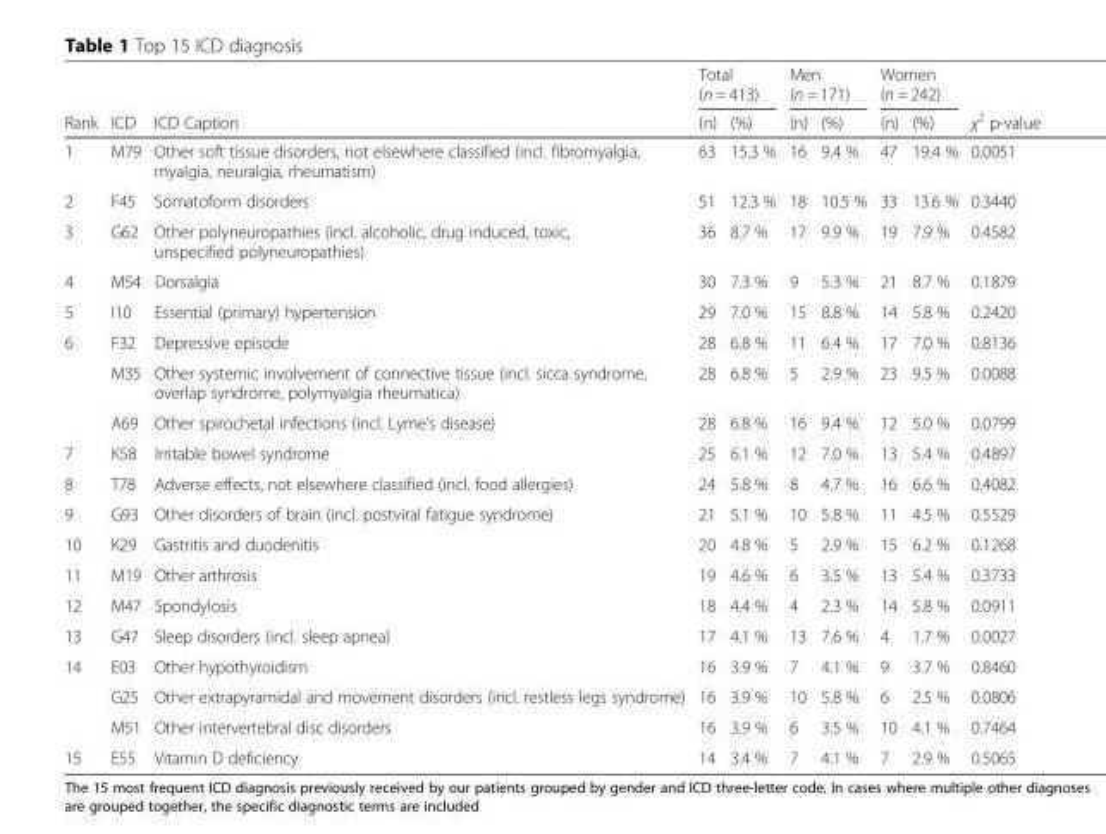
<table><thead><tr><td rowspan="2">Rank</td><td rowspan="2">ICD</td><td rowspan="2">ICD Caption</td><td colspan="2">Total (n = 413)</td><td colspan="2">Men (n = 171)</td><td colspan="2">Women (n = 242)</td><td rowspan="2">χ<sup>2</sup> p-value</td></tr><tr><td>(n)</td><td>(%)</td><td>(n)</td><td>(%)</td><td>(n)</td><td>(%)</td></tr></thead><tbody><tr><td>1</td><td>M79</td><td>Other soft tissue disorders, not elsewhere classified (incl. fibromyalgia, myalgia, neuralgia, rheumatism)</td><td>63</td><td>15.3 %</td><td>16</td><td>9.4 %</td><td>47</td><td>19.4 %</td><td>0.0051</td></tr><tr><td>2</td><td>F45</td><td>Somatoform disorders</td><td>51</td><td>12.3 %</td><td>18</td><td>10.5 %</td><td>33</td><td>13.6 %</td><td>0.3440</td></tr><tr><td>3</td><td>G62</td><td>Other polyneuropathies (incl. alcoholic, drug induced, toxic, unspecified polyneuropathies)</td><td>36</td><td>8.7 %</td><td>17</td><td>9.9 %</td><td>19</td><td>7.9 %</td><td>0.4582</td></tr><tr><td>4</td><td>M54</td><td>Dorsalgia</td><td>30</td><td>7.3 %</td><td>9</td><td>5.3 %</td><td>21</td><td>8.7 %</td><td>0.1879</td></tr><tr><td>5</td><td>I10</td><td>Essential (primary) hypertension</td><td>29</td><td>7.0 %</td><td>15</td><td>8.8 %</td><td>14</td><td>5.8 %</td><td>0.2420</td></tr><tr><td rowspan="3">6</td><td>F32</td><td>Depressive episode</td><td>28</td><td>6.8 %</td><td>11</td><td>6.4 %</td><td>17</td><td>7.0 %</td><td>0.8136</td></tr><tr><td>M35</td><td>Other systemic involvement of connective tissue (incl. sicca syndrome, overlap syndrome, polymyalgia rheumatica)</td><td>28</td><td>6.8 %</td><td>5</td><td>2.9 %</td><td>23</td><td>9.5 %</td><td>0.0088</td></tr><tr><td>A69</td><td>Other spirochetal infections (incl. Lyme’s disease)</td><td>28</td><td>6.8 %</td><td>16</td><td>9.4 %</td><td>12</td><td>5.0 %</td><td>0.0799</td></tr><tr><td>7</td><td>K58</td><td>Irritable bowel syndrome</td><td>25</td><td>6.1 %</td><td>12</td><td>7.0 %</td><td>13</td><td>5.4 %</td><td>0.4897</td></tr><tr><td>8</td><td>T78</td><td>Adverse effects, not elsewhere classified (incl. food allergies)</td><td>24</td><td>5.8 %</td><td>8</td><td>4.7 %</td><td>16</td><td>6.6 %</td><td>0.4082</td></tr><tr><td>9</td><td>G93</td><td>Other disorders of brain (incl. postviral fatigue syndrome)</td><td>21</td><td>5.1 %</td><td>10</td><td>5.8 %</td><td>11</td><td>4.5 %</td><td>0.5529</td></tr><tr><td>10</td><td>K29</td><td>Gastritis and duodenitis</td><td>20</td><td>4.8 %</td><td>5</td><td>2.9 %</td><td>15</td><td>6.2 %</td><td>0.1268</td></tr><tr><td>11</td><td>M19</td><td>Other arthrosis</td><td>19</td><td>4.6 %</td><td>6</td><td>3.5 %</td><td>13</td><td>5.4 %</td><td>0.3733</td></tr><tr><td>12</td><td>M47</td><td>Spondylosis</td><td>18</td><td>4.4 %</td><td>4</td><td>2.3 %</td><td>14</td><td>5.8 %</td><td>0.0911</td></tr><tr><td>13</td><td>G47</td><td>Sleep disorders (incl. sleep apnea)</td><td>17</td><td>4.1 %</td><td>13</td><td>7.6 %</td><td>4</td><td>1.7 %</td><td>0.0027</td></tr><tr><td rowspan="3">14</td><td>E03</td><td>Other hypothyroidism</td><td>16</td><td>3.9 %</td><td>7</td><td>4.1 %</td><td>9</td><td>3.7 %</td><td>0.8460</td></tr><tr><td>G25</td><td>Other extrapyramidal and movement disorders (incl. restless legs syndrome)</td><td>16</td><td>3.9 %</td><td>10</td><td>5.8 %</td><td>6</td><td>2.5 %</td><td>0.0806</td></tr><tr><td>M51</td><td>Other intervertebral disc disorders</td><td>16</td><td>3.9 %</td><td>6</td><td>3.5 %</td><td>10</td><td>4.1 %</td><td>0.7464</td></tr><tr><td>15</td><td>E55</td><td>Vitamin D deficiency</td><td>14</td><td>3.4 %</td><td>7</td><td>4.1 %</td><td>7</td><td>2.9 %</td><td>0.5065</td></tr></tbody></table>